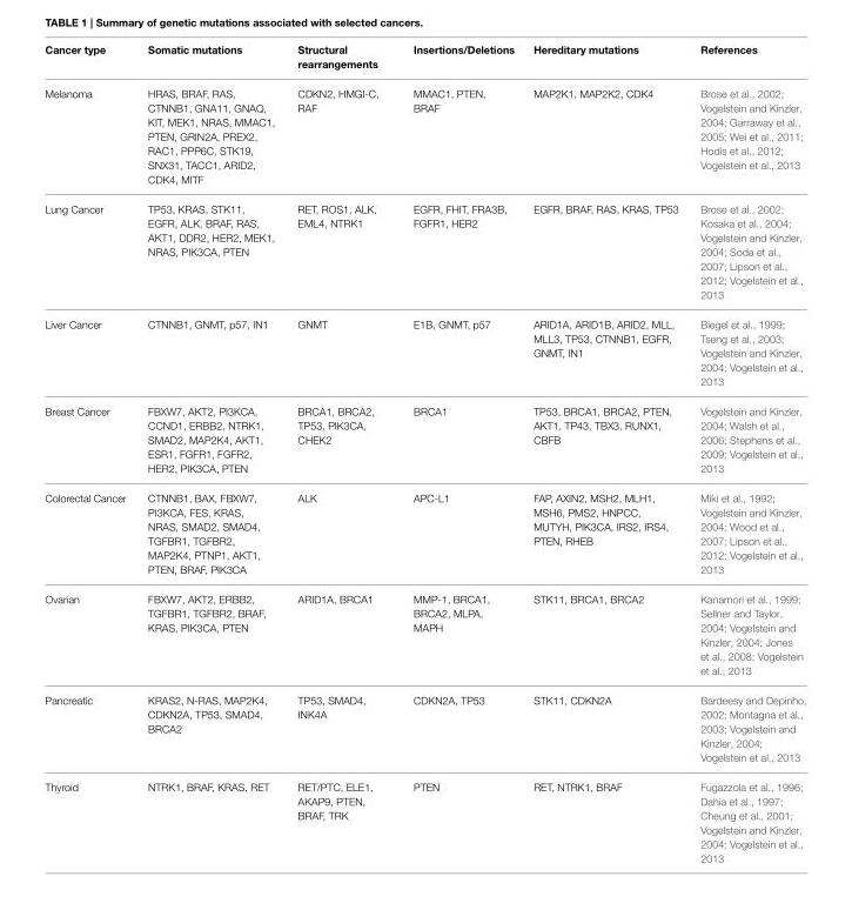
<table><thead><tr><td>Cancer type</td><td>Somatic mutations</td><td>Structural rearrangements</td><td>Insertions/Deletions</td><td>Hereditary mutations</td><td>References</td></tr></thead><tbody><tr><td>Melanoma</td><td>HRAS, BRAF, RAS, CTNNB1, GNA11, GNAQ, KIT, MEK1, NRAS, MMAC1, PTEN, GRIN2A, PREX2, RAC1, PPP6C, STK19, SNX31, TACC1, ARID2, CDK4, MITF</td><td>CDKN2, HMGI-C, RAF</td><td>MMAC1, PTEN, BRAF</td><td>MAP2K1, MAP2K2, CDK4</td><td>Brose et al., 2002; Vogelstein and Kinzler, 2004; Garraway et al., 2005; Wei et al., 2011; Hodis et al., 2012; Vogelstein et al., 2013</td></tr><tr><td>Lung Cancer</td><td>TP53, KRAS, STK11, EGFR, ALK, BRAF, RAS, AKT1, DDR2, HER2, MEK1, NRAS, PIK3CA, PTEN</td><td>RET, ROS1, ALK, EML4, NTRK1</td><td>EGFR, FHIT, FRA3B, FGFR1, HER2</td><td>EGFR, BRAF, RAS, KRAS, TP53</td><td>Brose et al., 2002; Kosaka et al., 2004; Vogelstein and Kinzler, 2004; Soda et al., 2007; Lipson et al., 2012; Vogelstein et al., 2013</td></tr><tr><td>Liver Cancer</td><td>CTNNB1, GNMT, p57, IN1</td><td>GNMT</td><td>E1B, GNMT, p57</td><td>ARID1A, ARID1B, ARID2, MLL, MLL3, TP53, CTNNB1, EGFR, GNMT, IN1</td><td>Biegel et al., 1999; Tseng et al., 2003; Vogelstein and Kinzler, 2004; Vogelstein et al., 2013</td></tr><tr><td>Breast Cancer</td><td>FBXW7, AKT2, PI3KCA, CCND1, ERBB2, NTRK1, SMAD2, MAP2K4, AKT1, ESR1, FGFR1, FGFR2, HER2, PIK3CA, PTEN</td><td>BRCA1, BRCA2, TP53, PIK3CA, CHEK2</td><td>BRCA1</td><td>TP53, BRCA1, BRCA2, PTEN, AKT1, TP43, TBX3, RUNX1, CBFB</td><td>Vogelstein and Kinzler, 2004; Walsh et al., 2006; Stephens et al., 2009; Vogelstein et al., 2013</td></tr><tr><td>Colorectal Cancer</td><td>CTNNB1, BAX, FBXW7, PI3KCA, FES, KRAS, NRAS, SMAD2, SMAD4, TGFBR1, TGFBR2, MAP2K4, PTNP1, AKT1, PTEN, BRAF, PIK3CA</td><td>ALK</td><td>APC-L1</td><td>FAP, AXIN2, MSH2, MLH1, MSH6, PMS2, HNPCC, MUTYH, PIK3CA, IRS2, IRS4, PTEN, RHEB</td><td>Miki et al., 1992; Vogelstein and Kinzler, 2004; Wood et al., 2007; Lipson et al., 2012; Vogelstein et al., 2013</td></tr><tr><td>Ovarian</td><td>FBXW7, AKT2, ERBB2, TGFBR1, TGFBR2, BRAF, KRAS, PIK3CA, PTEN</td><td>ARID1A, BRCA1</td><td>MMP-1, BRCA1, BRCA2, MLPA, MAPH</td><td>STK11, BRCA1, BRCA2</td><td>Kanamori et al., 1999; Sellner and Taylor, 2004; Vogelstein and Kinzler, 2004; Jones et al., 2008; Vogelstein et al., 2013</td></tr><tr><td>Pancreatic</td><td>KRAS2, N-RAS, MAP2K4, CDKN2A, TP53, SMAD4, BRCA2</td><td>TP53, SMAD4, INK4A</td><td>CDKN2A, TP53</td><td>STK11, CDKN2A</td><td>Bardeesy and Depinho, 2002; Montagna et al., 2003; Vogelstein and Kinzler, 2004; Vogelstein et al., 2013</td></tr><tr><td>Thyroid</td><td>NTRK1, BRAF, KRAS, RET</td><td>RET/PTC, ELE1, AKAP9, PTEN, BRAF, TRK</td><td>PTEN</td><td>RET, NTRK1, BRAF</td><td>Fugazzola et al., 1996; Dahia et al., 1997; Cheung et al., 2001; Vogelstein and Kinzler, 2004; Vogelstein et al., 2013</td></tr></tbody></table>